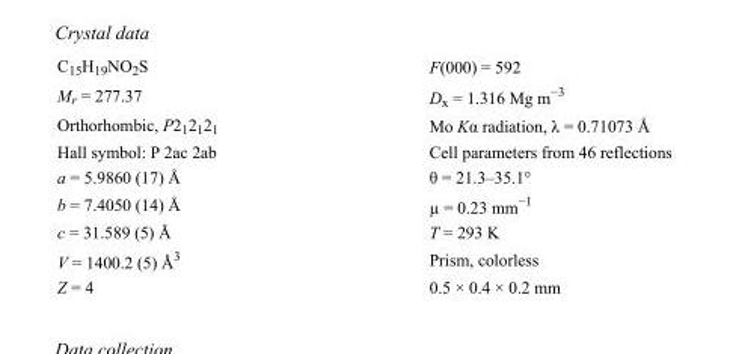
<table><tbody><tr><td>C<sub>15</sub>H<sub>19</sub>NO<sub>2</sub>S</td><td>F(000) = 592</td></tr><tr><td>M<sub>r</sub> = 277.37</td><td>D<sub>x</sub> = 1.316 Mg m<sup>−3</sup></td></tr><tr><td>Orthorhombic, P2<sub>1</sub>2<sub>1</sub>2<sub>1</sub></td><td>Mo Kα radiation, λ = 0.71073 Å</td></tr><tr><td>Hall symbol: P 2ac 2ab</td><td>Cell parameters from 46 reflections</td></tr><tr><td>a = 5.9860 (17) Å</td><td>θ = 21.3–35.1°</td></tr><tr><td>b = 7.4050 (14) Å</td><td>µ = 0.23 mm<sup>−1</sup></td></tr><tr><td>c = 31.589 (5) Å</td><td>T = 293 K</td></tr><tr><td>V = 1400.2 (5) Å<sup>3</sup></td><td>Prism, colorless</td></tr><tr><td>Z = 4</td><td>0.5 × 0.4 × 0.2 mm</td></tr></tbody></table>